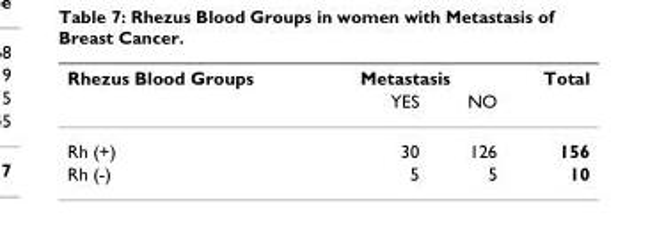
<table><thead><tr><td rowspan="2">Rhezus Blood Groups</td><td colspan="2">Metastasis</td><td rowspan="2">Total</td></tr><tr><td>YES</td><td>NO</td></tr></thead><tbody><tr><td>Rh (+)</td><td>30</td><td>126</td><td>156</td></tr><tr><td>Rh (-)</td><td>5</td><td>5</td><td>10</td></tr></tbody></table>